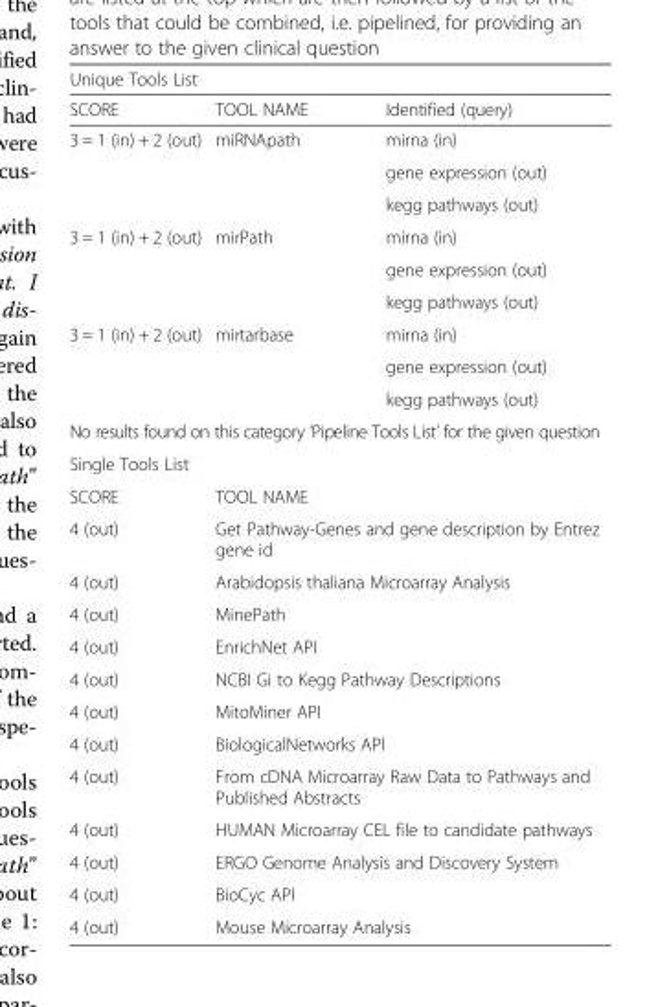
<table><thead><tr><td colspan="3">Unique Tools List</td></tr><tr><td>SCORE</td><td>TOOL NAME</td><td>Identified (query)</td></tr></thead><tbody><tr><td rowspan="3">3 = 1 (in) + 2 (out)</td><td rowspan="3">miRNApath</td><td>mirna (in)</td></tr><tr><td>gene expression (out)</td></tr><tr><td>kegg pathways (out)</td></tr><tr><td rowspan="3">3 = 1 (in) + 2 (out)</td><td rowspan="3">mirPath</td><td>mirna (in)</td></tr><tr><td>gene expression (out)</td></tr><tr><td>kegg pathways (out)</td></tr><tr><td rowspan="3">3 = 1 (in) + 2 (out)</td><td rowspan="3">mirtarbase</td><td>mirna (in)</td></tr><tr><td>gene expression (out)</td></tr><tr><td>kegg pathways (out)</td></tr><tr><td colspan="3">No results found on this category ‘Pipeline Tools List’ for the given question</td></tr><tr><td colspan="3">Single Tools List</td></tr><tr><td>SCORE</td><td colspan="2">TOOL NAME</td></tr><tr><td>4 (out)</td><td colspan="2">Get Pathway-Genes and gene description by Entrez gene id</td></tr><tr><td>4 (out)</td><td colspan="2">Arabidopsis thaliana Microarray Analysis</td></tr><tr><td>4 (out)</td><td colspan="2">MinePath</td></tr><tr><td>4 (out)</td><td colspan="2">EnrichNet API</td></tr><tr><td>4 (out)</td><td colspan="2">NCBI Gi to Kegg Pathway Descriptions</td></tr><tr><td>4 (out)</td><td colspan="2">MitoMiner API</td></tr><tr><td>4 (out)</td><td colspan="2">BiologicalNetworks API</td></tr><tr><td>4 (out)</td><td colspan="2">From cDNA Microarray Raw Data to Pathways and Published Abstracts</td></tr><tr><td>4 (out)</td><td colspan="2">HUMAN Microarray CEL file to candidate pathways</td></tr><tr><td>4 (out)</td><td colspan="2">ERGO Genome Analysis and Discovery System</td></tr><tr><td>4 (out)</td><td colspan="2">BioCyc API</td></tr><tr><td>4 (out)</td><td colspan="2">Mouse Microarray Analysis</td></tr></tbody></table>